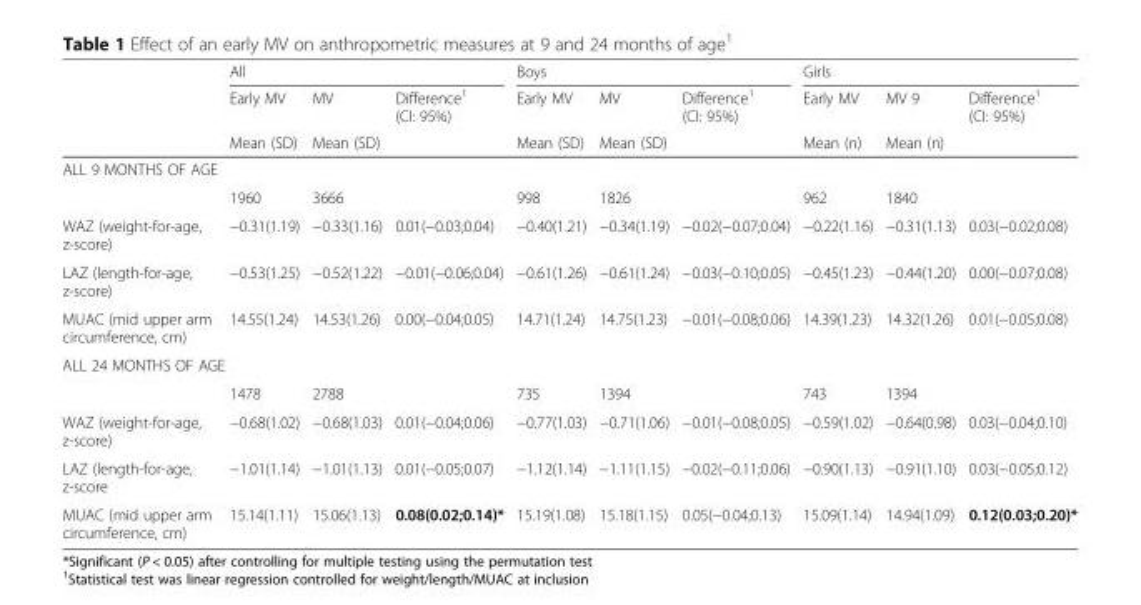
<table><thead><tr><td rowspan="3"></td><td colspan="3">All</td><td colspan="3">Boys</td><td colspan="3">Girls</td></tr><tr><td rowspan="2">Early MV Mean (SD)</td><td rowspan="2">MV Mean (SD)</td><td rowspan="2">Difference<sup>1</sup> (CI: 95%)</td><td rowspan="2">Early MV Mean (SD)</td><td rowspan="2">MV Mean (SD)</td><td rowspan="2">Difference<sup>1</sup> (CI: 95%)</td><td rowspan="2">Early MV Mean (n)</td><td rowspan="2">MV 9 Mean (n)</td><td rowspan="2">Difference<sup>1</sup> (CI: 95%)</td></tr><tr></tr></thead><tbody><tr><td colspan="10">ALL 9 MONTHS OF AGE</td></tr><tr><td></td><td>1960</td><td>3666</td><td></td><td>998</td><td>1826</td><td></td><td>962</td><td>1840</td><td></td></tr><tr><td>WAZ (weight-for-age, z-score)</td><td>−0.31(1.19)</td><td>−0.33(1.16)</td><td>0.01(−0.03;0.04)</td><td>−0.40(1.21)</td><td>−0.34(1.19)</td><td>−0.02(−0.07;0.04)</td><td>−0.22(1.16)</td><td>−0.31(1.13)</td><td>0.03(−0.02;0.08)</td></tr><tr><td>LAZ (length-for-age, z-score)</td><td>−0.53(1.25)</td><td>−0.52(1.22)</td><td>−0.01(−0.06;0.04)</td><td>−0.61(1.26)</td><td>−0.61(1.24)</td><td>−0.03(−0.10;0.05)</td><td>−0.45(1.23)</td><td>−0.44(1.20)</td><td>0.00(−0.07;0.08)</td></tr><tr><td>MUAC (mid upper arm circumference, cm)</td><td>14.55(1.24)</td><td>14.53(1.26)</td><td>0.00(−0.04;0.05)</td><td>14.71(1.24)</td><td>14.75(1.23)</td><td>−0.01(−0.08;0.06)</td><td>14.39(1.23)</td><td>14.32(1.26)</td><td>0.01(−0.05;0.08)</td></tr><tr><td colspan="10">ALL 24 MONTHS OF AGE</td></tr><tr><td></td><td>1478</td><td>2788</td><td></td><td>735</td><td>1394</td><td></td><td>743</td><td>1394</td><td></td></tr><tr><td>WAZ (weight-for-age, z-score)</td><td>−0.68(1.02)</td><td>−0.68(1.03)</td><td>0.01(−0.04;0.06)</td><td>−0.77(1.03)</td><td>−0.71(1.06)</td><td>−0.01(−0.08;0.05)</td><td>−0.59(1.02)</td><td>−0.64(0.98)</td><td>0.03(−0.04;0.10)</td></tr><tr><td>LAZ (length-for-age, z-score</td><td>−1.01(1.14)</td><td>−1.01(1.13)</td><td>0.01(−0.05;0.07)</td><td>−1.12(1.14)</td><td>−1.11(1.15)</td><td>−0.02(−0.11;0.06)</td><td>−0.90(1.13)</td><td>−0.91(1.10)</td><td>0.03(−0.05;0.12)</td></tr><tr><td>MUAC (mid upper arm circumference, cm)</td><td>15.14(1.11)</td><td>15.06(1.13)</td><td>0.08(0.02;0.14)*</td><td>15.19(1.08)</td><td>15.18(1.15)</td><td>0.05(−0.04;0.13)</td><td>15.09(1.14)</td><td>14.94(1.09)</td><td>0.12(0.03;0.20)*</td></tr></tbody></table>